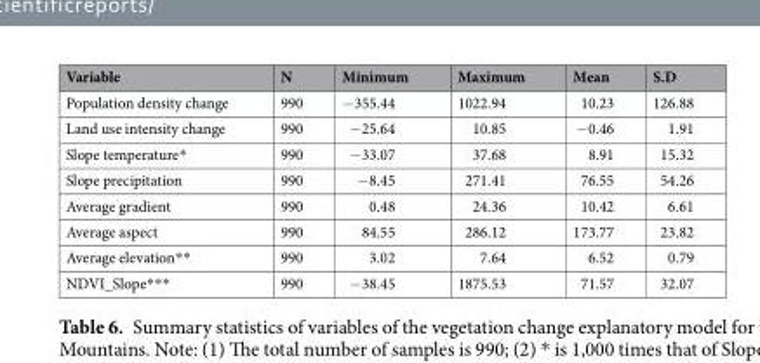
<table><thead><tr><td>Variable</td><td>N</td><td>Minimum</td><td>Maximum</td><td>Mean</td><td>S.D</td></tr></thead><tbody><tr><td>Population density change</td><td>990</td><td>−355.44</td><td>1022.94</td><td>10.23</td><td>126.88</td></tr><tr><td>Land use intensity change</td><td>990</td><td>−25.64</td><td>10.85</td><td>−0.46</td><td>1.91</td></tr><tr><td>Slope temperature*</td><td>990</td><td>−33.07</td><td>37.68</td><td>8.91</td><td>15.32</td></tr><tr><td>Slope precipitation</td><td>990</td><td>−8.45</td><td>271.41</td><td>76.55</td><td>54.26</td></tr><tr><td>Average gradient</td><td>990</td><td>0.48</td><td>24.36</td><td>10.42</td><td>6.61</td></tr><tr><td>Average aspect</td><td>990</td><td>84.55</td><td>286.12</td><td>173.77</td><td>23.82</td></tr><tr><td>Average elevation**</td><td>990</td><td>3.02</td><td>7.64</td><td>6.52</td><td>0.79</td></tr><tr><td>NDVI_Slope***</td><td>990</td><td>−38.45</td><td>1875.53</td><td>71.57</td><td>32.07</td></tr></tbody></table>